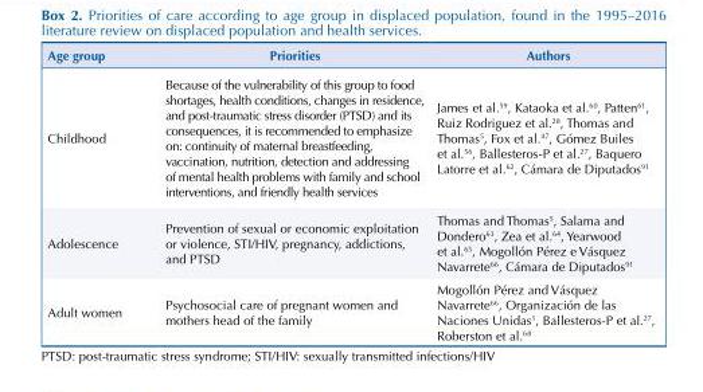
<table><thead><tr><td>Age group</td><td>Priorities</td><td>Authors</td></tr></thead><tbody><tr><td>Childhood</td><td>Because of the vulnerability of this group to food shortages, health conditions, changes in residence, and post-traumatic stress disorder (PTSD) and its consequences, it is recommended to emphasize on: continuity of maternal breastfeeding, vaccination, nutrition, detection and addressing of mental health problems with family and school interventions, and friendly health services</td><td>James et al.<sup>59</sup>, Kataoka et al.<sup>60</sup>, Patten<sup>61</sup>, Ruiz Rodriguez et al.<sup>28</sup>, Thomas and Thomas<sup>5</sup>, Fox et al.<sup>47</sup>, Gómez Builes et al.<sup>56</sup>, Ballesteros-P et al.<sup>27</sup>, Baquero Latorre et al.<sup>62</sup>, Cámara de Diputados<sup>91</sup></td></tr><tr><td>Adolescence</td><td>Prevention of sexual or economic exploitation or violence, STI/HIV, pregnancy, addictions, and PTSD</td><td>Thomas and Thomas<sup>5</sup>, Salama and Dondero<sup>63</sup>, Zea et al.<sup>64</sup>, Yearwood et al.<sup>65</sup>, Mogollón Pérez e Vásquez Navarrete<sup>66</sup>, Cámara de Diputados<sup>91</sup></td></tr><tr><td>Adult women</td><td>Psychosocial care of pregnant women and mothers head of the family</td><td>Mogollón Pérez and Vásquez Navarrete<sup>66</sup>, Organización de las Naciones Unidas<sup>1</sup>, Ballesteros-P et al.<sup>27</sup>, Roberston et al.<sup>68</sup></td></tr></tbody></table>